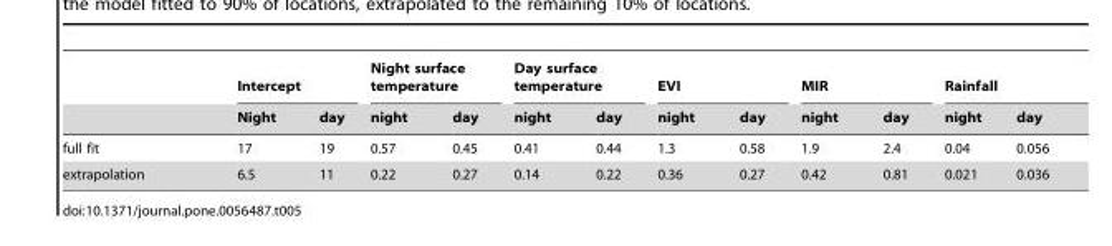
<table><thead><tr><td rowspan="2"></td><td colspan="2">Intercept</td><td colspan="2">Night surface temperature</td><td colspan="2">Day surface temperature</td><td colspan="2">EVI</td><td colspan="2">MIR</td><td colspan="2">Rainfall</td></tr><tr><td>Night</td><td>day</td><td>night</td><td>day</td><td>night</td><td>day</td><td>night</td><td>day</td><td>night</td><td>day</td><td>night</td><td>day</td></tr></thead><tbody><tr><td>full fit</td><td>17</td><td>19</td><td>0.57</td><td>0.45</td><td>0.41</td><td>0.44</td><td>1.3</td><td>0.58</td><td>1.9</td><td>2.4</td><td>0.04</td><td>0.056</td></tr><tr><td>extrapolation</td><td>6.5</td><td>11</td><td>0.22</td><td>0.27</td><td>0.14</td><td>0.22</td><td>0.36</td><td>0.27</td><td>0.42</td><td>0.81</td><td>0.021</td><td>0.036</td></tr></tbody></table>